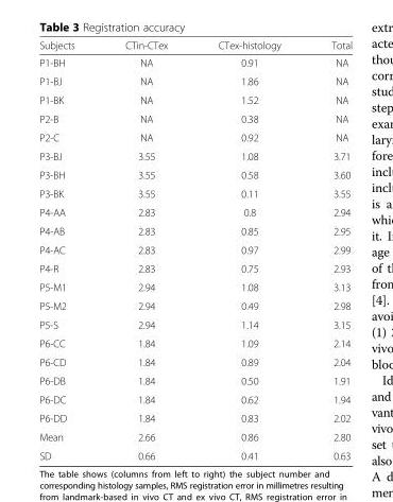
<table><thead><tr><td>Subjects</td><td>CTin-CTex</td><td>CTex-histology</td><td>Total</td></tr></thead><tbody><tr><td>P1-BH</td><td>NA</td><td>0.91</td><td>NA</td></tr><tr><td>P1-BJ</td><td>NA</td><td>1.86</td><td>NA</td></tr><tr><td>P1-BK</td><td>NA</td><td>1.52</td><td>NA</td></tr><tr><td>P2-B</td><td>NA</td><td>0.38</td><td>NA</td></tr><tr><td>P2-C</td><td>NA</td><td>0.92</td><td>NA</td></tr><tr><td>P3-BJ</td><td>3.55</td><td>1.08</td><td>3.71</td></tr><tr><td>P3-BH</td><td>3.55</td><td>0.58</td><td>3.60</td></tr><tr><td>P3-BK</td><td>3.55</td><td>0.11</td><td>3.55</td></tr><tr><td>P4-AA</td><td>2.83</td><td>0.8</td><td>2.94</td></tr><tr><td>P4-AB</td><td>2.83</td><td>0.85</td><td>2.95</td></tr><tr><td>P4-AC</td><td>2.83</td><td>0.97</td><td>2.99</td></tr><tr><td>P4-R</td><td>2.83</td><td>0.75</td><td>2.93</td></tr><tr><td>P5-M1</td><td>2.94</td><td>1.08</td><td>3.13</td></tr><tr><td>P5-M2</td><td>2.94</td><td>0.49</td><td>2.98</td></tr><tr><td>P5-S</td><td>2.94</td><td>1.14</td><td>3.15</td></tr><tr><td>P6-CC</td><td>1.84</td><td>1.09</td><td>2.14</td></tr><tr><td>P6-CD</td><td>1.84</td><td>0.89</td><td>2.04</td></tr><tr><td>P6-DB</td><td>1.84</td><td>0.50</td><td>1.91</td></tr><tr><td>P6-DC</td><td>1.84</td><td>0.62</td><td>1.94</td></tr><tr><td>P6-DD</td><td>1.84</td><td>0.83</td><td>2.02</td></tr><tr><td>Mean</td><td>2.66</td><td>0.86</td><td>2.80</td></tr><tr><td>SD</td><td>0.66</td><td>0.41</td><td>0.63</td></tr></tbody></table>